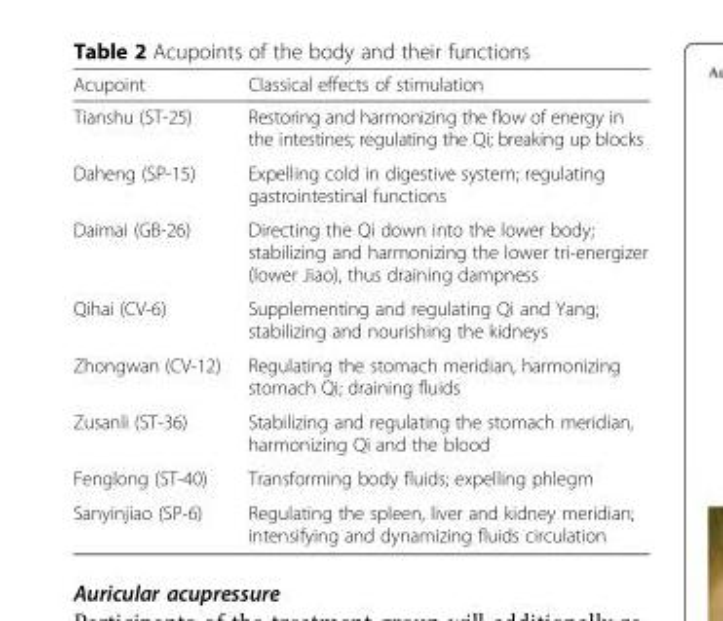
<table><thead><tr><td>Acupoint</td><td>Classical effects of stimulation</td></tr></thead><tbody><tr><td>Tianshu (ST-25)</td><td>Restoring and harmonizing the flow of energy in the intestines; regulating the Qi; breaking up blocks</td></tr><tr><td>Daheng (SP-15)</td><td>Expelling cold in digestive system; regulating gastrointestinal functions</td></tr><tr><td>Daimai (GB-26)</td><td>Directing the Qi down into the lower body; stabilizing and harmonizing the lower tri-energizer (lower Jiao), thus draining dampness</td></tr><tr><td>Qihai (CV-6)</td><td>Supplementing and regulating Qi and Yang; stabilizing and nourishing the kidneys</td></tr><tr><td>Zhongwan (CV-12)</td><td>Regulating the stomach meridian, harmonizing stomach Qi; draining fluids</td></tr><tr><td>Zusanli (ST-36)</td><td>Stabilizing and regulating the stomach meridian, harmonizing Qi and the blood</td></tr><tr><td>Fenglong (ST-40)</td><td>Transforming body fluids; expelling phlegm</td></tr><tr><td>Sanyinjiao (SP-6)</td><td>Regulating the spleen, liver and kidney meridian; intensifying and dynamizing fluids circulation</td></tr></tbody></table>